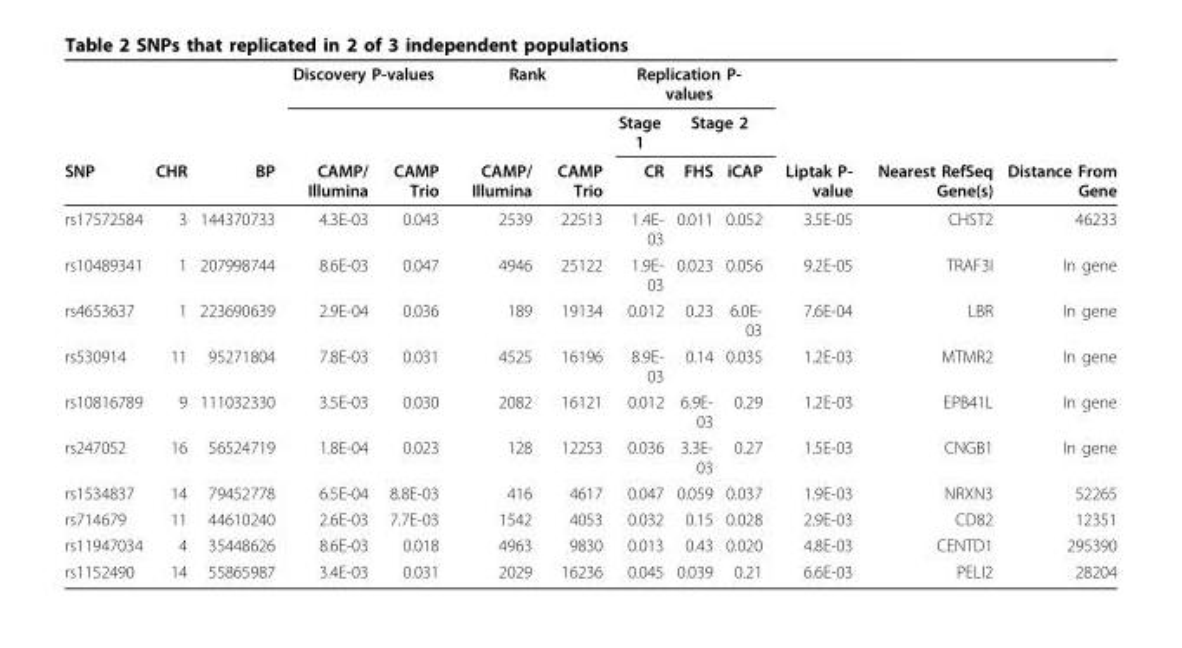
<table><thead><tr><td rowspan="3">SNP</td><td rowspan="3">CHR</td><td rowspan="3">BP</td><td colspan="2">Discovery P-values</td><td colspan="2">Rank</td><td colspan="3">Replication P- values</td><td rowspan="3">Liptak P- value</td><td rowspan="3">Nearest RefSeq Gene(s)</td><td rowspan="3">Distance From Gene</td></tr><tr><td rowspan="2">CAMP/ Illumina</td><td rowspan="2">CAMP Trio</td><td rowspan="2">CAMP/ Illumina</td><td rowspan="2">CAMP Trio</td><td rowspan="2">Stage 1 CR</td><td colspan="2">Stage 2</td></tr><tr><td>FHS</td><td>iCAP</td></tr></thead><tbody><tr><td>rs17572584</td><td>3</td><td>144370733</td><td>4.3E-03</td><td>0.043</td><td>2539</td><td>22513</td><td>1.4E- 03</td><td>0.011</td><td>0.052</td><td>3.5E-05</td><td>CHST2</td><td>46233</td></tr><tr><td>rs10489341</td><td>1</td><td>207998744</td><td>8.6E-03</td><td>0.047</td><td>4946</td><td>25122</td><td>1.9E- 03</td><td>0.023</td><td>0.056</td><td>9.2E-05</td><td>TRAF3I</td><td>In gene</td></tr><tr><td>rs4653637</td><td>1</td><td>223690639</td><td>2.9E-04</td><td>0.036</td><td>189</td><td>19134</td><td>0.012</td><td>0.23</td><td>6.0E- 03</td><td>7.6E-04</td><td>LBR</td><td>In gene</td></tr><tr><td>rs530914</td><td>11</td><td>95271804</td><td>7.8E-03</td><td>0.031</td><td>4525</td><td>16196</td><td>8.9E- 03</td><td>0.14</td><td>0.035</td><td>1.2E-03</td><td>MTMR2</td><td>In gene</td></tr><tr><td>rs10816789</td><td>9</td><td>111032330</td><td>3.5E-03</td><td>0.030</td><td>2082</td><td>16121</td><td>0.012</td><td>6.9E- 03</td><td>0.29</td><td>1.2E-03</td><td>EPB41L</td><td>In gene</td></tr><tr><td>rs247052</td><td>16</td><td>56524719</td><td>1.8E-04</td><td>0.023</td><td>128</td><td>12253</td><td>0.036</td><td>3.3E- 03</td><td>0.27</td><td>1.5E-03</td><td>CNGB1</td><td>In gene</td></tr><tr><td>rs1534837</td><td>14</td><td>79452778</td><td>6.5E-04</td><td>8.8E-03</td><td>416</td><td>4617</td><td>0.047</td><td>0.059</td><td>0.037</td><td>1.9E-03</td><td>NRXN3</td><td>52265</td></tr><tr><td>rs714679</td><td>11</td><td>44610240</td><td>2.6E-03</td><td>7.7E-03</td><td>1542</td><td>4053</td><td>0.032</td><td>0.15</td><td>0.028</td><td>2.9E-03</td><td>CD82</td><td>12351</td></tr><tr><td>rs11947034</td><td>4</td><td>35448626</td><td>8.6E-03</td><td>0.018</td><td>4963</td><td>9830</td><td>0.013</td><td>0.43</td><td>0.020</td><td>4.8E-03</td><td>CENTD1</td><td>295390</td></tr><tr><td>rs1152490</td><td>14</td><td>55865987</td><td>3.4E-03</td><td>0.031</td><td>2029</td><td>16236</td><td>0.045</td><td>0.039</td><td>0.21</td><td>6.6E-03</td><td>PELI2</td><td>28204</td></tr></tbody></table>